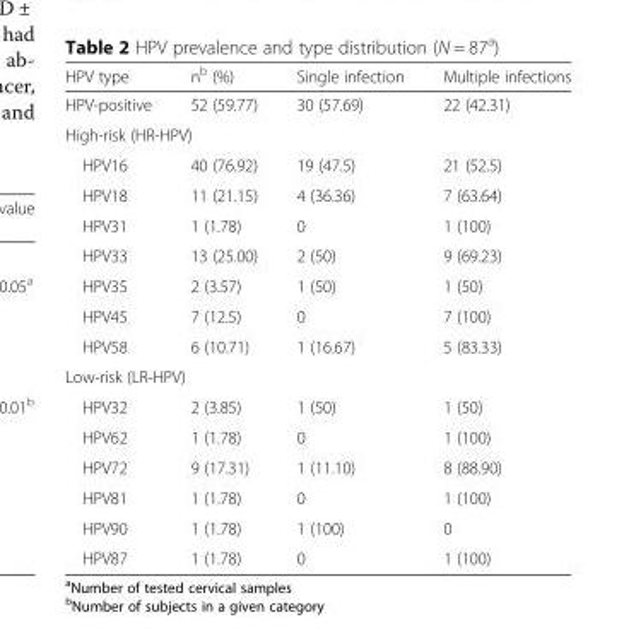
<table><thead><tr><td>HPV type</td><td>n<sup>b</sup> (%)</td><td>Single infection</td><td>Multiple infections</td></tr></thead><tbody><tr><td>HPV-positive</td><td>52 (59.77)</td><td>30 (57.69)</td><td>22 (42.31)</td></tr><tr><td colspan="4">High-risk (HR-HPV)</td></tr><tr><td>HPV16</td><td>40 (76.92)</td><td>19 (47.5)</td><td>21 (52.5)</td></tr><tr><td>HPV18</td><td>11 (21.15)</td><td>4 (36.36)</td><td>7 (63.64)</td></tr><tr><td>HPV31</td><td>1 (1.78)</td><td>0</td><td>1 (100)</td></tr><tr><td>HPV33</td><td>13 (25.00)</td><td>2 (50)</td><td>9 (69.23)</td></tr><tr><td>HPV35</td><td>2 (3.57)</td><td>1 (50)</td><td>1 (50)</td></tr><tr><td>HPV45</td><td>7 (12.5)</td><td>0</td><td>7 (100)</td></tr><tr><td>HPV58</td><td>6 (10.71)</td><td>1 (16.67)</td><td>5 (83.33)</td></tr><tr><td colspan="4">Low-risk (LR-HPV)</td></tr><tr><td>HPV32</td><td>2 (3.85)</td><td>1 (50)</td><td>1 (50)</td></tr><tr><td>HPV62</td><td>1 (1.78)</td><td>0</td><td>1 (100)</td></tr><tr><td>HPV72</td><td>9 (17.31)</td><td>1 (11.10)</td><td>8 (88.90)</td></tr><tr><td>HPV81</td><td>1 (1.78)</td><td>0</td><td>1 (100)</td></tr><tr><td>HPV90</td><td>1 (1.78)</td><td>1 (100)</td><td>0</td></tr><tr><td>HPV87</td><td>1 (1.78)</td><td>0</td><td>1 (100)</td></tr></tbody></table>